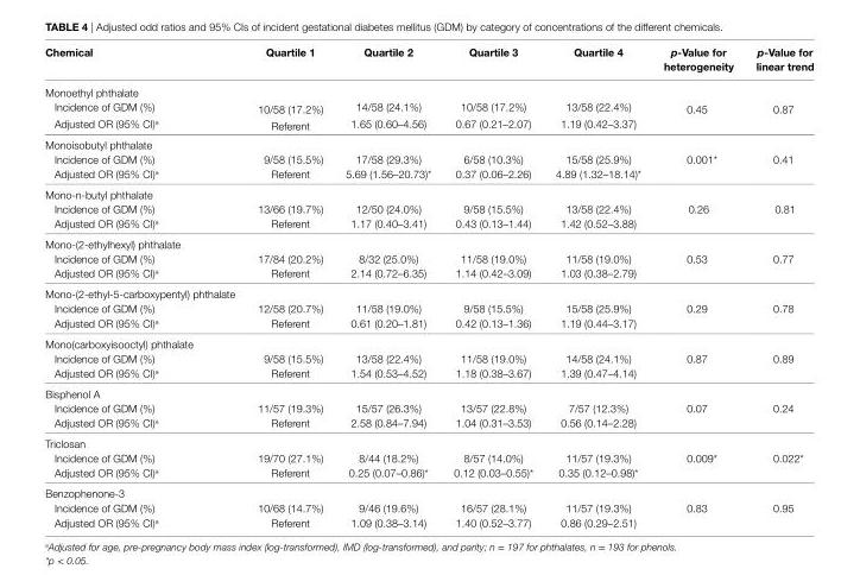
<table><thead><tr><td>chemical</td><td>Quartile 1</td><td>Quartile 2</td><td>Quartile 3</td><td>Quartile 4</td><td>p-Value for heterogeneity</td><td>p-Value for linear trend</td></tr></thead><tbody><tr><td colspan="7">Monoethyl phthalate</td></tr><tr><td>Incidence of GDM (%)</td><td>10/58 (17.2%)</td><td>14/58 (24.1%)</td><td>10/58 (17.2%)</td><td>13/58 (22.4%)</td><td>0.45</td><td>0.87</td></tr><tr><td>Adjusted OR (95% CI)<sup>a</sup></td><td>Referent</td><td>1.65 (0.60–4.56)</td><td>0.67 (0.21–2.07)</td><td>1.19 (0.42–3.37)</td><td></td><td></td></tr><tr><td colspan="7">Monoisobutyl phthalate</td></tr><tr><td>Incidence of GDM (%)</td><td>9/58 (15.5%)</td><td>17/58 (29.3%)</td><td>6/58 (10.3%)</td><td>15/58 (25.9%)</td><td>0.001*</td><td>0.41</td></tr><tr><td>Adjusted OR (95% CI)<sup>a</sup></td><td>Referent</td><td>5.69 (1.56–20.73)*</td><td>0.37 (0.06–2.26)</td><td>4.89 (1.32–18.14)*</td><td></td><td></td></tr><tr><td colspan="7">Mono-n-butyl phthalate</td></tr><tr><td>Incidence of GDM (%)</td><td>13/66 (19.7%)</td><td>12/50 (24.0%)</td><td>9/58 (15.5%)</td><td>13/58 (22.4%)</td><td>0.26</td><td>0.81</td></tr><tr><td>Adjusted OR (95% CI)<sup>a</sup></td><td>Referent</td><td>1.17 (0.40–3.41)</td><td>0.43 (0.13–1.44)</td><td>1.42 (0.52–3.88)</td><td></td><td></td></tr><tr><td colspan="7">Mono-(2-ethylhexyl) phthalate</td></tr><tr><td>Incidence of GDM (%)</td><td>17/84 (20.2%)</td><td>8/32 (25.0%)</td><td>11/58 (19.0%)</td><td>11/58 (19.0%)</td><td>0.53</td><td>0.77</td></tr><tr><td>Adjusted OR (95% CI)<sup>a</sup></td><td>Referent</td><td>2.14 (0.72–6.35)</td><td>1.14 (0.42–3.09)</td><td>1.03 (0.38–2.79)</td><td></td><td></td></tr><tr><td colspan="7">Mono-(2-ethyl-5-carboxypentyl) phthalate</td></tr><tr><td>Incidence of GDM (%)</td><td>12/58 (20.7%)</td><td>11/58 (19.0%)</td><td>9/58 (15.5%)</td><td>15/58 (25.9%)</td><td>0.29</td><td>0.78</td></tr><tr><td>Adjusted OR (95% CI)<sup>a</sup></td><td>Referent</td><td>0.61 (0.20–1.81)</td><td>0.42 (0.13–1.36)</td><td>1.19 (0.44–3.17)</td><td></td><td></td></tr><tr><td colspan="7">Mono(carboxyisooctyl) phthalate</td></tr><tr><td>Incidence of GDM (%)</td><td>9/58 (15.5%)</td><td>13/58 (22.4%)</td><td>11/58 (19.0%)</td><td>14/58 (24.1%)</td><td>0.87</td><td>0.89</td></tr><tr><td>Adjusted OR (95% CI)<sup>a</sup></td><td>Referent</td><td>1.54 (0.53–4.52)</td><td>1.18 (0.38–3.67)</td><td>1.39 (0.47–4.14)</td><td></td><td></td></tr><tr><td colspan="7">Bisphenol A</td></tr><tr><td>Incidence of GDM (%)</td><td>11/57 (19.3%)</td><td>15/57 (26.3%)</td><td>13/57 (22.8%)</td><td>7/57 (12.3%)</td><td>0.07</td><td>0.24</td></tr><tr><td>Adjusted OR (95% CI)<sup>a</sup></td><td>Referent</td><td>2.58 (0.84–7.94)</td><td>1.04 (0.31–3.53)</td><td>0.56 (0.14–2.28)</td><td></td><td></td></tr><tr><td colspan="7">Triclosan</td></tr><tr><td>Incidence of GDM (%)</td><td>19/70 (27.1%)</td><td>8/44 (18.2%)</td><td>8/57 (14.0%)</td><td>11/57 (19.3%)</td><td>0.009*</td><td>0.022*</td></tr><tr><td>Adjusted OR (95% CI)<sup>a</sup></td><td>Referent</td><td>0.25 (0.07–0.86)*</td><td>0.12 (0.03–0.55)*</td><td>0.35 (0.12–0.98)*</td><td></td><td></td></tr><tr><td colspan="7">Benzophenone-3</td></tr><tr><td>Incidence of GDM (%)</td><td>10/68 (14.7%)</td><td>9/46 (19.6%)</td><td>16/57 (28.1%)</td><td>11/57 (19.3%)</td><td>0.83</td><td>0.95</td></tr><tr><td>Adjusted OR (95% CI)<sup>a</sup></td><td>Referent</td><td>1.09 (0.38–3.14)</td><td>1.40 (0.52–3.77)</td><td>0.86 (0.29–2.51)</td><td></td><td></td></tr></tbody></table>